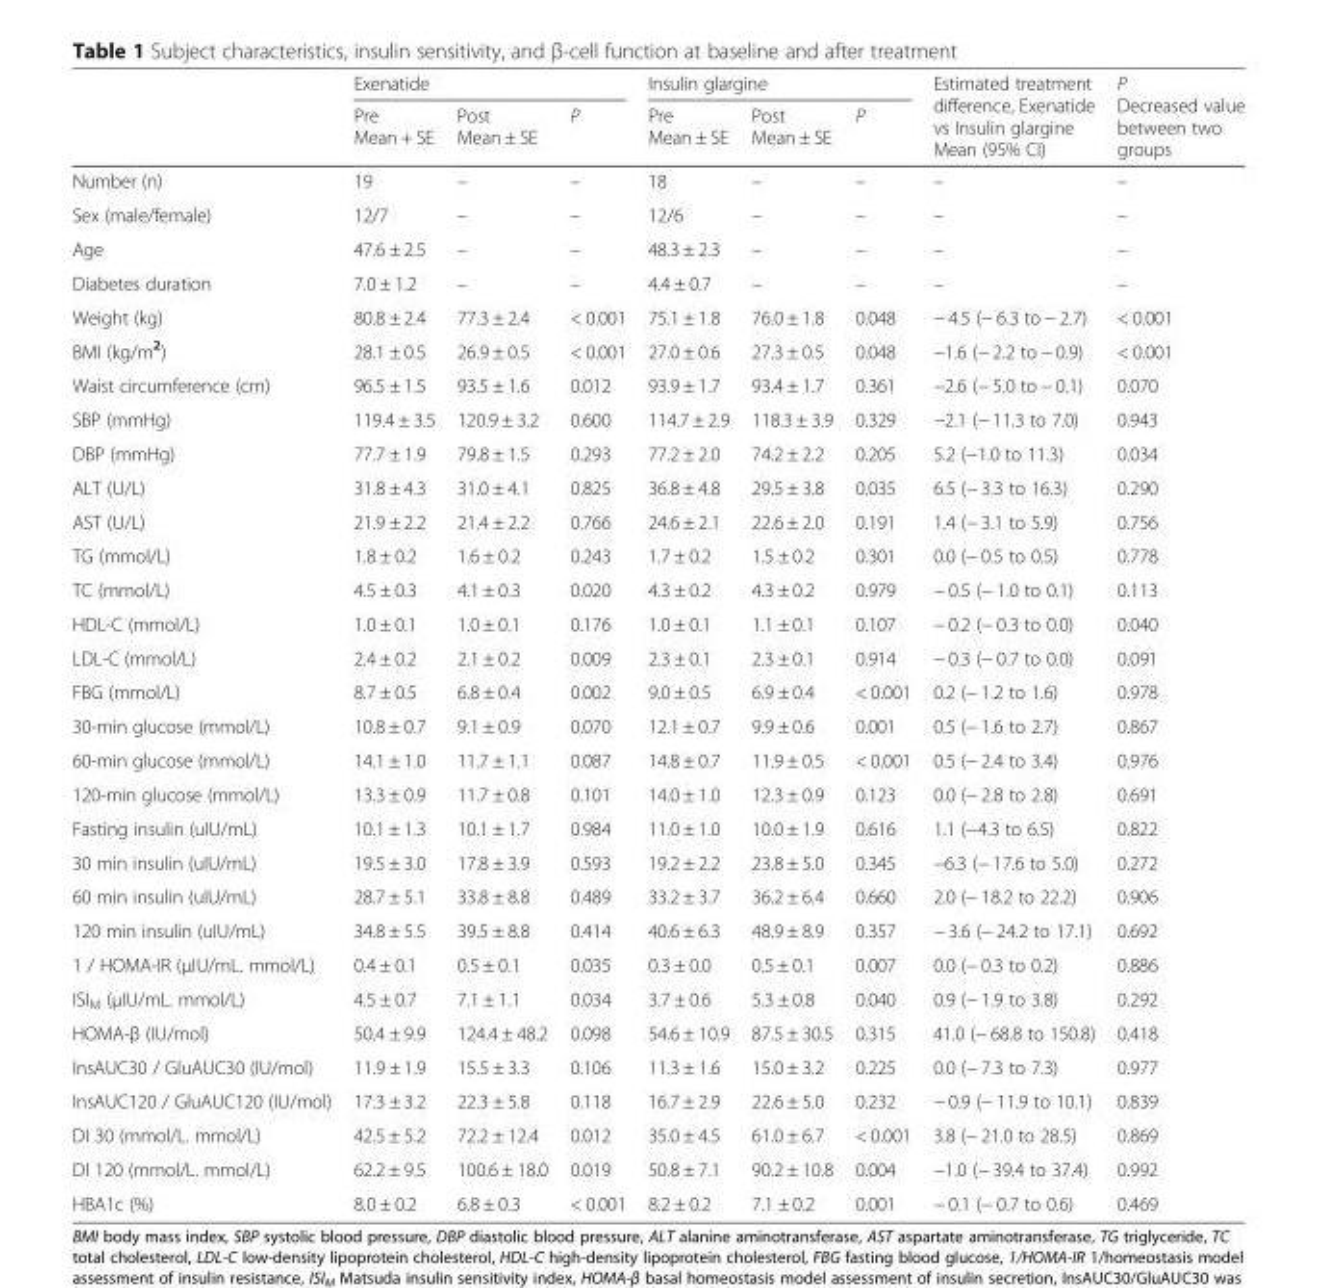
<table><thead><tr><td rowspan="2"></td><td colspan="3">Exenatide</td><td colspan="3">Insulin glargine</td><td rowspan="2">Estimated treatment difference, Exenatide vs Insulin glargine Mean (95% CI)</td><td rowspan="2">P Decreased value between two groups</td></tr><tr><td>Pre Mean + SE</td><td>Post Mean ± SE</td><td>P</td><td>Pre Mean ± SE</td><td>Post Mean ± SE</td><td>P</td></tr></thead><tbody><tr><td>Number (n)</td><td>19</td><td>–</td><td>–</td><td>18</td><td>–</td><td>–</td><td>–</td><td>–</td></tr><tr><td>Sex (male/female)</td><td>12/7</td><td>–</td><td>–</td><td>12/6</td><td>–</td><td>–</td><td>–</td><td>–</td></tr><tr><td>Age</td><td>47.6 ± 2.5</td><td>–</td><td>–</td><td>48.3 ± 2.3</td><td>–</td><td>–</td><td>–</td><td>–</td></tr><tr><td>Diabetes duration</td><td>7.0 ± 1.2</td><td>–</td><td>–</td><td>4.4 ± 0.7</td><td>–</td><td>–</td><td>–</td><td>–</td></tr><tr><td>Weight (kg)</td><td>80.8 ± 2.4</td><td>77.3 ± 2.4</td><td>&lt; 0.001</td><td>75.1 ± 1.8</td><td>76.0 ± 1.8</td><td>0.048</td><td>− 4.5 (− 6.3 to − 2.7)</td><td>&lt; 0.001</td></tr><tr><td>BMI (kg/m<sup>2</sup>)</td><td>28.1 ± 0.5</td><td>26.9 ± 0.5</td><td>&lt; 0.001</td><td>27.0 ± 0.6</td><td>27.3 ± 0.5</td><td>0.048</td><td>−1.6 (− 2.2 to − 0.9)</td><td>&lt; 0.001</td></tr><tr><td>Waist circumference (cm)</td><td>96.5 ± 1.5</td><td>93.5 ± 1.6</td><td>0.012</td><td>93.9 ± 1.7</td><td>93.4 ± 1.7</td><td>0.361</td><td>−2.6 (− 5.0 to − 0.1)</td><td>0.070</td></tr><tr><td>SBP (mmHg)</td><td>119.4 ± 3.5</td><td>120.9 ± 3.2</td><td>0.600</td><td>114.7 ± 2.9</td><td>118.3 ± 3.9</td><td>0.329</td><td>−2.1 (− 11.3 to 7.0)</td><td>0.943</td></tr><tr><td>DBP (mmHg)</td><td>77.7 ± 1.9</td><td>79.8 ± 1.5</td><td>0.293</td><td>77.2 ± 2.0</td><td>74.2 ± 2.2</td><td>0.205</td><td>5.2 (−1.0 to 11.3)</td><td>0.034</td></tr><tr><td>ALT (U/L)</td><td>31.8 ± 4.3</td><td>31.0 ± 4.1</td><td>0.825</td><td>36.8 ± 4.8</td><td>29.5 ± 3.8</td><td>0.035</td><td>6.5 (− 3.3 to 16.3)</td><td>0.290</td></tr><tr><td>AST (U/L)</td><td>21.9 ± 2.2</td><td>21.4 ± 2.2</td><td>0.766</td><td>24.6 ± 2.1</td><td>22.6 ± 2.0</td><td>0.191</td><td>1.4 (− 3.1 to 5.9)</td><td>0.756</td></tr><tr><td>TG (mmol/L)</td><td>1.8 ± 0.2</td><td>1.6 ± 0.2</td><td>0.243</td><td>1.7 ± 0.2</td><td>1.5 ± 0.2</td><td>0.301</td><td>0.0 (− 0.5 to 0.5)</td><td>0.778</td></tr><tr><td>TC (mmol/L)</td><td>4.5 ± 0.3</td><td>4.1 ± 0.3</td><td>0.020</td><td>4.3 ± 0.2</td><td>4.3 ± 0.2</td><td>0.979</td><td>− 0.5 (− 1.0 to 0.1)</td><td>0.113</td></tr><tr><td>HDL-C (mmol/L)</td><td>1.0 ± 0.1</td><td>1.0 ± 0.1</td><td>0.176</td><td>1.0 ± 0.1</td><td>1.1 ± 0.1</td><td>0.107</td><td>− 0.2 (− 0.3 to 0.0)</td><td>0.040</td></tr><tr><td>LDL-C (mmol/L)</td><td>2.4 ± 0.2</td><td>2.1 ± 0.2</td><td>0.009</td><td>2.3 ± 0.1</td><td>2.3 ± 0.1</td><td>0.914</td><td>− 0.3 (− 0.7 to 0.0)</td><td>0.091</td></tr><tr><td>FBG (mmol/L)</td><td>8.7 ± 0.5</td><td>6.8 ± 0.4</td><td>0.002</td><td>9.0 ± 0.5</td><td>6.9 ± 0.4</td><td>&lt; 0.001</td><td>0.2 (− 1.2 to 1.6)</td><td>0.978</td></tr><tr><td>30-min glucose (mmol/L)</td><td>10.8 ± 0.7</td><td>9.1 ± 0.9</td><td>0.070</td><td>12.1 ± 0.7</td><td>9.9 ± 0.6</td><td>0.001</td><td>0.5 (− 1.6 to 2.7)</td><td>0.867</td></tr><tr><td>60-min glucose (mmol/L)</td><td>14.1 ± 1.0</td><td>11.7 ± 1.1</td><td>0.087</td><td>14.8 ± 0.7</td><td>11.9 ± 0.5</td><td>&lt; 0.001</td><td>0.5 (− 2.4 to 3.4)</td><td>0.976</td></tr><tr><td>120-min glucose (mmol/L)</td><td>13.3 ± 0.9</td><td>11.7 ± 0.8</td><td>0.101</td><td>14.0 ± 1.0</td><td>12.3 ± 0.9</td><td>0.123</td><td>0.0 (− 2.8 to 2.8)</td><td>0.691</td></tr><tr><td>Fasting insulin (uIU/mL)</td><td>10.1 ± 1.3</td><td>10.1 ± 1.7</td><td>0.984</td><td>11.0 ± 1.0</td><td>10.0 ± 1.9</td><td>0.616</td><td>1.1 (−4.3 to 6.5)</td><td>0.822</td></tr><tr><td>30 min insulin (uIU/mL)</td><td>19.5 ± 3.0</td><td>17.8 ± 3.9</td><td>0.593</td><td>19.2 ± 2.2</td><td>23.8 ± 5.0</td><td>0.345</td><td>−6.3 (− 17.6 to 5.0)</td><td>0.272</td></tr><tr><td>60 min insulin (uIU/mL)</td><td>28.7 ± 5.1</td><td>33.8 ± 8.8</td><td>0.489</td><td>33.2 ± 3.7</td><td>36.2 ± 6.4</td><td>0.660</td><td>2.0 (− 18.2 to 22.2)</td><td>0.906</td></tr><tr><td>120 min insulin (uIU/mL)</td><td>34.8 ± 5.5</td><td>39.5 ± 8.8</td><td>0.414</td><td>40.6 ± 6.3</td><td>48.9 ± 8.9</td><td>0.357</td><td>− 3.6 (− 24.2 to 17.1)</td><td>0.692</td></tr><tr><td>1 / HOMA-IR (μIU/mL. mmol/L)</td><td>0.4 ± 0.1</td><td>0.5 ± 0.1</td><td>0.035</td><td>0.3 ± 0.0</td><td>0.5 ± 0.1</td><td>0.007</td><td>0.0 (− 0.3 to 0.2)</td><td>0.886</td></tr><tr><td>ISI<sub>M</sub> (μIU/mL. mmol/L)</td><td>4.5 ± 0.7</td><td>7.1 ± 1.1</td><td>0.034</td><td>3.7 ± 0.6</td><td>5.3 ± 0.8</td><td>0.040</td><td>0.9 (− 1.9 to 3.8)</td><td>0.292</td></tr><tr><td>HOMA-β (IU/mol)</td><td>50.4 ± 9.9</td><td>124.4 ± 48.2</td><td>0.098</td><td>54.6 ± 10.9</td><td>87.5 ± 30.5</td><td>0.315</td><td>41.0 (− 68.8 to 150.8)</td><td>0.418</td></tr><tr><td>InsAUC30 / GluAUC30 (IU/mol)</td><td>11.9 ± 1.9</td><td>15.5 ± 3.3</td><td>0.106</td><td>11.3 ± 1.6</td><td>15.0 ± 3.2</td><td>0.225</td><td>0.0 (− 7.3 to 7.3)</td><td>0.977</td></tr><tr><td>InsAUC120 / GluAUC120 (IU/mol)</td><td>17.3 ± 3.2</td><td>22.3 ± 5.8</td><td>0.118</td><td>16.7 ± 2.9</td><td>22.6 ± 5.0</td><td>0.232</td><td>− 0.9 (− 11.9 to 10.1)</td><td>0.839</td></tr><tr><td>DI 30 (mmol/L. mmol/L)</td><td>42.5 ± 5.2</td><td>72.2 ± 12.4</td><td>0.012</td><td>35.0 ± 4.5</td><td>61.0 ± 6.7</td><td>&lt; 0.001</td><td>3.8 (− 21.0 to 28.5)</td><td>0.869</td></tr><tr><td>DI 120 (mmol/L. mmol/L)</td><td>62.2 ± 9.5</td><td>100.6 ± 18.0</td><td>0.019</td><td>50.8 ± 7.1</td><td>90.2 ± 10.8</td><td>0.004</td><td>−1.0 (− 39.4 to 37.4)</td><td>0.992</td></tr><tr><td>HBA1c (%)</td><td>8.0 ± 0.2</td><td>6.8 ± 0.3</td><td>&lt; 0.001</td><td>8.2 ± 0.2</td><td>7.1 ± 0.2</td><td>0.001</td><td>− 0.1 (− 0.7 to 0.6)</td><td>0.469</td></tr></tbody></table>